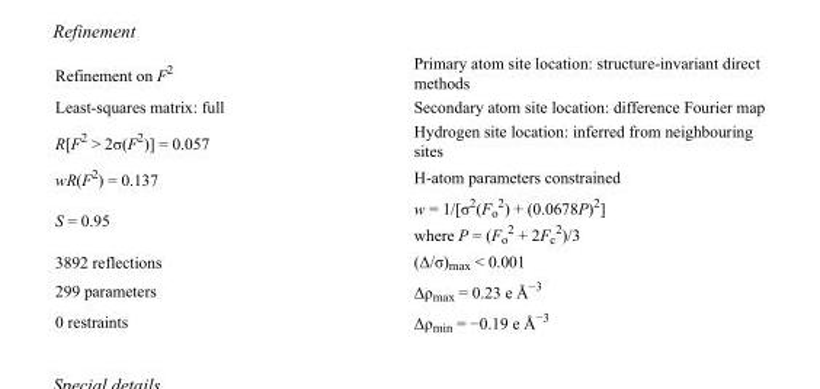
<table><tbody><tr><td>Refinement on F<sup>2</sup></td><td>Primary atom site location: structure-invariant direct methods</td></tr><tr><td>Least-squares matrix: full</td><td>Secondary atom site location: difference Fourier map</td></tr><tr><td>R[F<sup>2</sup> &gt; 2σ(F<sup>2</sup>)] = 0.057</td><td>Hydrogen site location: inferred from neighbouring sites</td></tr><tr><td>wR(F<sup>2</sup>) = 0.137</td><td>H-atom parameters constrained</td></tr><tr><td>S = 0.95</td><td>w = 1/[σ<sup>2</sup>(F<sub>o</sub> <sup>2</sup>) + (0.0678P)<sup>2</sup>] where P = (F<sub>o</sub> <sup>2</sup> + 2F<sub>c</sub> <sup>2</sup>)/3</td></tr><tr><td>3892 reflections</td><td>(Δ/σ)<sub>max</sub> &lt; 0.001</td></tr><tr><td>299 parameters</td><td>Δρ<sub>max</sub> = 0.23 e Å<sup>−3</sup></td></tr><tr><td>0 restraints</td><td>Δρ<sub>min</sub> = −0.19 e Å<sup>−3</sup></td></tr></tbody></table>